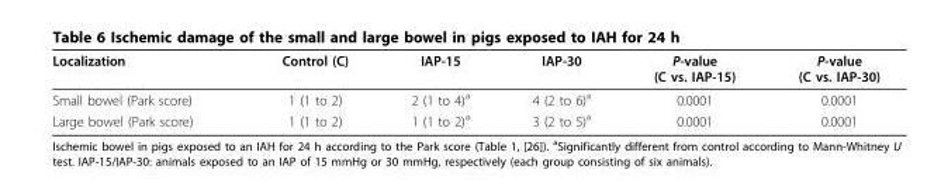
<table><thead><tr><td>Localization</td><td>Control (C)</td><td>IAP-15</td><td>IAP-30</td><td>P-value (C vs. IAP-15)</td><td>P-value (C vs. IAP-30)</td></tr></thead><tbody><tr><td>Small bowel (Park score)</td><td>1 (1 to 2)</td><td>2 (1 to 4)<sup>a</sup></td><td>4 (2 to 6)<sup>a</sup></td><td>0.0001</td><td>0.0001</td></tr><tr><td>Large bowel (Park score)</td><td>1 (1 to 2)</td><td>1 (1 to 2)<sup>a</sup></td><td>3 (2 to 5)<sup>a</sup></td><td>0.0001</td><td>0.0001</td></tr></tbody></table>